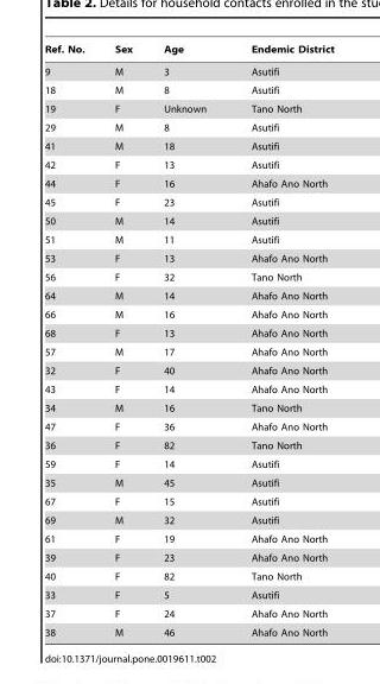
<table><thead><tr><td>Ref. No.</td><td>Sex</td><td>Age</td><td>Endemic District</td></tr></thead><tbody><tr><td>9</td><td>M</td><td>3</td><td>Asutifi</td></tr><tr><td>18</td><td>M</td><td>8</td><td>Asutifi</td></tr><tr><td>19</td><td>F</td><td>Unknown</td><td>Tano North</td></tr><tr><td>29</td><td>M</td><td>8</td><td>Asutifi</td></tr><tr><td>41</td><td>M</td><td>18</td><td>Asutifi</td></tr><tr><td>42</td><td>F</td><td>13</td><td>Asutifi</td></tr><tr><td>44</td><td>F</td><td>16</td><td>Ahafo Ano North</td></tr><tr><td>45</td><td>F</td><td>23</td><td>Asutifi</td></tr><tr><td>50</td><td>M</td><td>14</td><td>Asutifi</td></tr><tr><td>51</td><td>M</td><td>11</td><td>Asutifi</td></tr><tr><td>53</td><td>F</td><td>13</td><td>Ahafo Ano North</td></tr><tr><td>56</td><td>F</td><td>32</td><td>Tano North</td></tr><tr><td>64</td><td>M</td><td>14</td><td>Ahafo Ano North</td></tr><tr><td>66</td><td>M</td><td>16</td><td>Ahafo Ano North</td></tr><tr><td>68</td><td>F</td><td>13</td><td>Ahafo Ano North</td></tr><tr><td>57</td><td>M</td><td>17</td><td>Ahafo Ano North</td></tr><tr><td>32</td><td>F</td><td>40</td><td>Ahafo Ano North</td></tr><tr><td>43</td><td>F</td><td>14</td><td>Ahafo Ano North</td></tr><tr><td>34</td><td>M</td><td>16</td><td>Tano North</td></tr><tr><td>47</td><td>F</td><td>36</td><td>Ahafo Ano North</td></tr><tr><td>36</td><td>F</td><td>82</td><td>Tano North</td></tr><tr><td>59</td><td>F</td><td>14</td><td>Asutifi</td></tr><tr><td>35</td><td>M</td><td>45</td><td>Asutifi</td></tr><tr><td>67</td><td>F</td><td>15</td><td>Asutifi</td></tr><tr><td>69</td><td>M</td><td>32</td><td>Asutifi</td></tr><tr><td>61</td><td>F</td><td>19</td><td>Ahafo Ano North</td></tr><tr><td>39</td><td>F</td><td>23</td><td>Ahafo Ano North</td></tr><tr><td>40</td><td>F</td><td>82</td><td>Tano North</td></tr><tr><td>33</td><td>F</td><td>5</td><td>Asutifi</td></tr><tr><td>37</td><td>F</td><td>24</td><td>Ahafo Ano North</td></tr><tr><td>38</td><td>M</td><td>46</td><td>Ahafo Ano North</td></tr></tbody></table>